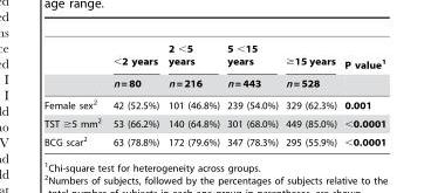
<table><thead><tr><td rowspan="2"></td><td rowspan="2">&lt;2 years n = 80</td><td rowspan="2">2 &lt;5 years n = 216</td><td rowspan="2">5 &lt;15 years n = 443</td><td rowspan="2">≥15 years n = 528</td><td rowspan="2">P value<sup>1</sup></td></tr><tr></tr></thead><tbody><tr><td>Female sex<sup>2</sup></td><td>42 (52.5%)</td><td>101 (46.8%)</td><td>239 (54.0%)</td><td>329 (62.3%)</td><td>0.001</td></tr><tr><td>TST ≥5 mm<sup>2</sup></td><td>53 (66.2%)</td><td>140 (64.8%)</td><td>301 (68.0%)</td><td>449 (85.0%)</td><td>&lt;0.0001</td></tr><tr><td>BCG scar<sup>2</sup></td><td>63 (78.8%)</td><td>172 (79.6%)</td><td>347 (78.3%)</td><td>295 (55.9%)</td><td>&lt;0.0001</td></tr></tbody></table>